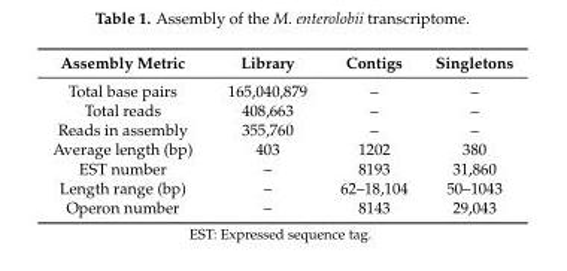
<table><thead><tr><td>Assembly Metric</td><td>Library</td><td>Contigs</td><td>Singletons</td></tr></thead><tbody><tr><td>Total base pairs</td><td>165,040,879</td><td>–</td><td>–</td></tr><tr><td>Total reads</td><td>408,663</td><td>–</td><td>–</td></tr><tr><td>Reads in assembly</td><td>355,760</td><td>–</td><td>–</td></tr><tr><td>Average length (bp)</td><td>403</td><td>1202</td><td>380</td></tr><tr><td>EST number</td><td>–</td><td>8193</td><td>31,860</td></tr><tr><td>Length range (bp)</td><td>–</td><td>62–18,104</td><td>50–1043</td></tr><tr><td>Operon number</td><td>–</td><td>8143</td><td>29,043</td></tr></tbody></table>